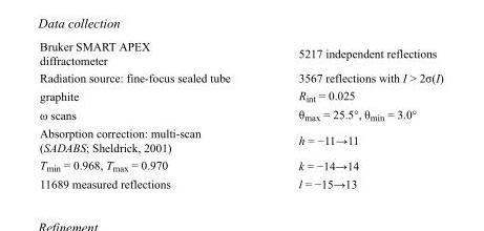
<table><tbody><tr><td>Bruker SMART APEX diffractometer</td><td>5217 independent reflections</td></tr><tr><td>Radiation source: fine-focus sealed tube</td><td>3567 reflections with I &gt; 2σ(I)</td></tr><tr><td>graphite</td><td>R<sub>int</sub> = 0.025</td></tr><tr><td>ω scans</td><td>θ<sub>max</sub> = 25.5°, θ<sub>min</sub> = 3.0°</td></tr><tr><td>Absorption correction: multi-scan (SADABS; Sheldrick, 2001)</td><td>h = −11→11</td></tr><tr><td>T<sub>min</sub> = 0.968, T<sub>max</sub> = 0.970</td><td>k = −14→14</td></tr><tr><td>11689 measured reflections</td><td>l = −15→13</td></tr></tbody></table>